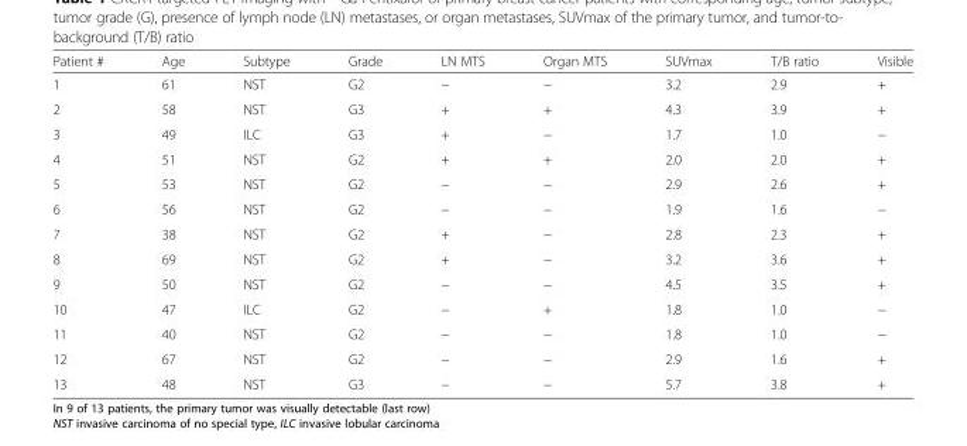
<table><thead><tr><td>Patient #</td><td>Age</td><td>Subtype</td><td>Grade</td><td>LN MTS</td><td>Organ MTS</td><td>SUVmax</td><td>T/B ratio</td><td>Visible</td></tr></thead><tbody><tr><td>1</td><td>61</td><td>NST</td><td>G2</td><td>−</td><td>−</td><td>3.2</td><td>2.9</td><td>+</td></tr><tr><td>2</td><td>58</td><td>NST</td><td>G3</td><td>+</td><td>+</td><td>4.3</td><td>3.9</td><td>+</td></tr><tr><td>3</td><td>49</td><td>ILC</td><td>G3</td><td>+</td><td>−</td><td>1.7</td><td>1.0</td><td>−</td></tr><tr><td>4</td><td>51</td><td>NST</td><td>G2</td><td>+</td><td>+</td><td>2.0</td><td>2.0</td><td>+</td></tr><tr><td>5</td><td>53</td><td>NST</td><td>G2</td><td>−</td><td>−</td><td>2.9</td><td>2.6</td><td>+</td></tr><tr><td>6</td><td>56</td><td>NST</td><td>G2</td><td>−</td><td>−</td><td>1.9</td><td>1.6</td><td>−</td></tr><tr><td>7</td><td>38</td><td>NST</td><td>G2</td><td>+</td><td>−</td><td>2.8</td><td>2.3</td><td>+</td></tr><tr><td>8</td><td>69</td><td>NST</td><td>G2</td><td>+</td><td>−</td><td>3.2</td><td>3.6</td><td>+</td></tr><tr><td>9</td><td>50</td><td>NST</td><td>G2</td><td>−</td><td>−</td><td>4.5</td><td>3.5</td><td>+</td></tr><tr><td>10</td><td>47</td><td>ILC</td><td>G2</td><td>−</td><td>+</td><td>1.8</td><td>1.0</td><td>−</td></tr><tr><td>11</td><td>40</td><td>NST</td><td>G2</td><td>−</td><td>−</td><td>1.8</td><td>1.0</td><td>−</td></tr><tr><td>12</td><td>67</td><td>NST</td><td>G2</td><td>−</td><td>−</td><td>2.9</td><td>1.6</td><td>+</td></tr><tr><td>13</td><td>48</td><td>NST</td><td>G3</td><td>−</td><td>−</td><td>5.7</td><td>3.8</td><td>+</td></tr></tbody></table>